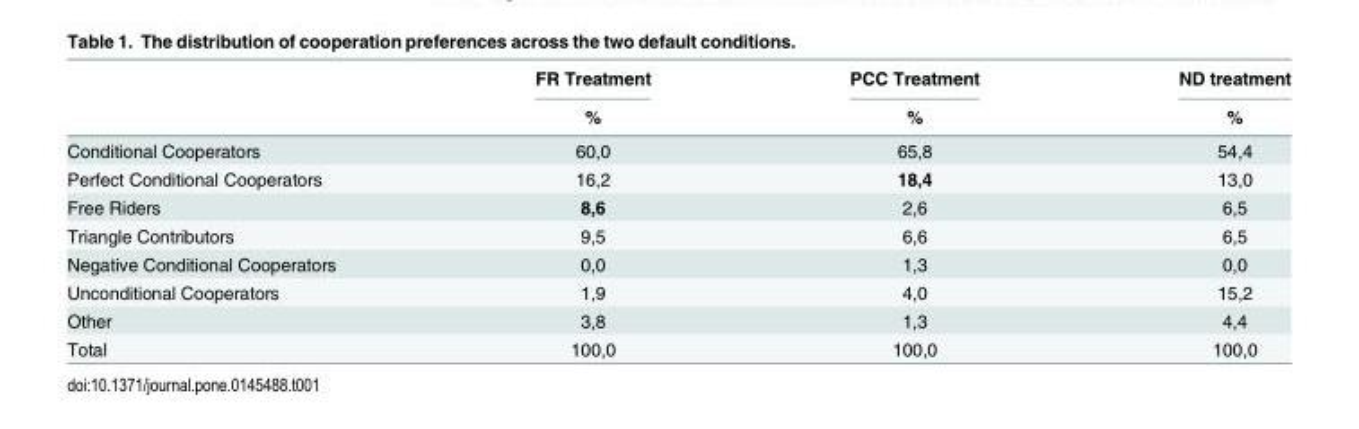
<table><thead><tr><td rowspan="2"></td><td rowspan="2">FR Treatment %</td><td rowspan="2">PCC Treatment %</td><td rowspan="2">ND treatment %</td></tr><tr></tr></thead><tbody><tr><td>Conditional Cooperators</td><td>60,0</td><td>65,8</td><td>54,4</td></tr><tr><td>Perfect Conditional Cooperators</td><td>16,2</td><td>18,4</td><td>13,0</td></tr><tr><td>Free Riders</td><td>8,6</td><td>2,6</td><td>6,5</td></tr><tr><td>Triangle Contributors</td><td>9,5</td><td>6,6</td><td>6,5</td></tr><tr><td>Negative Conditional Cooperators</td><td>0,0</td><td>1,3</td><td>0,0</td></tr><tr><td>Unconditional Cooperators</td><td>1,9</td><td>4,0</td><td>15,2</td></tr><tr><td>Other</td><td>3,8</td><td>1,3</td><td>4,4</td></tr><tr><td>Total</td><td>100,0</td><td>100,0</td><td>100,0</td></tr></tbody></table>